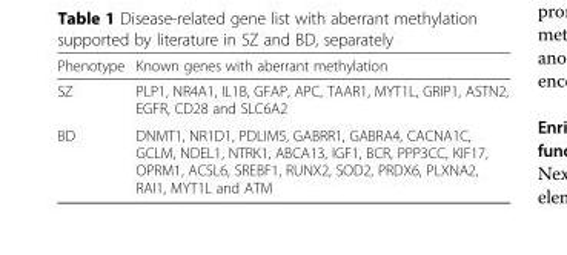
<table><thead><tr><td>Phenotype</td><td>Known genes with aberrant methylation</td></tr></thead><tbody><tr><td>SZ</td><td>PLP1, NR4A1, IL1B, GFAP, APC, TAAR1, MYT1L, GRIP1, ASTN2, EGFR, CD28 and SLC6A2</td></tr><tr><td>BD</td><td>DNMT1, NR1D1, PDLIM5, GABRR1, GABRA4, CACNA1C, GCLM, NDEL1, NTRK1, ABCA13, IGF1, BCR, PPP3CC, KIF17, OPRM1, ACSL6, SREBF1, RUNX2, SOD2, PRDX6, PLXNA2, RAI1, MYT1L and ATM</td></tr></tbody></table>